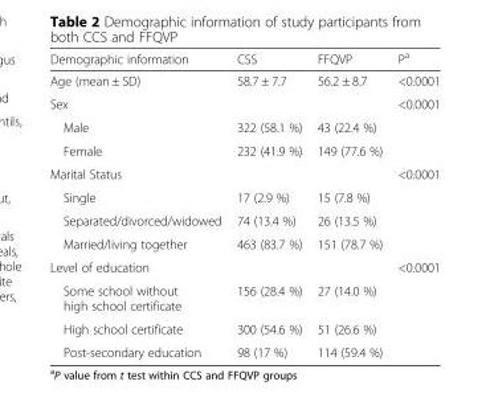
<table><thead><tr><td>Demographic information</td><td>CSS</td><td>FFQVP</td><td>P<sup>a</sup></td></tr></thead><tbody><tr><td>Age (mean ± SD)</td><td>58.7 ± 7.7</td><td>56.2 ± 8.7</td><td>&lt;0.0001</td></tr><tr><td colspan="3">Sex</td><td rowspan="3">&lt;0.0001</td></tr><tr><td>Male</td><td>322 (58.1 %)</td><td>43 (22.4 %)</td></tr><tr><td>Female</td><td>232 (41.9 %)</td><td>149 (77.6 %)</td></tr><tr><td colspan="3">Marital Status</td><td rowspan="4">&lt;0.0001</td></tr><tr><td>Single</td><td>17 (2.9 %)</td><td>15 (7.8 %)</td></tr><tr><td>Separated/divorced/widowed</td><td>74 (13.4 %)</td><td>26 (13.5 %)</td></tr><tr><td>Married/living together</td><td>463 (83.7 %)</td><td>151 (78.7 %)</td></tr><tr><td colspan="3">Level of education</td><td rowspan="4">&lt;0.0001</td></tr><tr><td>Some school without high school certificate</td><td>156 (28.4 %)</td><td>27 (14.0 %)</td></tr><tr><td>High school certificate</td><td>300 (54.6 %)</td><td>51 (26.6 %)</td></tr><tr><td>Post-secondary education</td><td>98 (17 %)</td><td>114 (59.4 %)</td></tr></tbody></table>